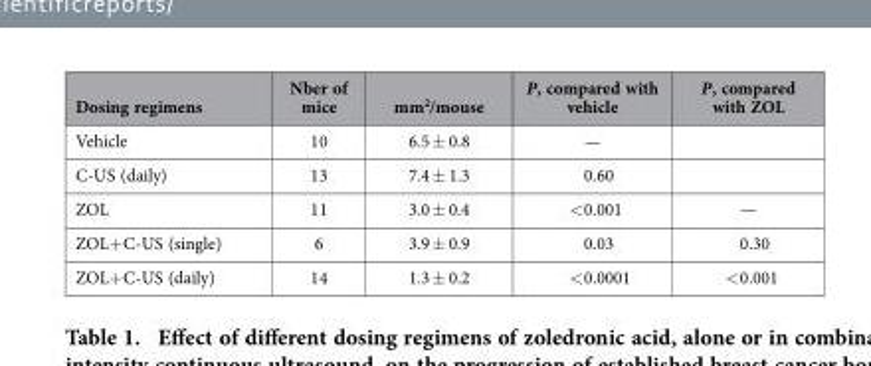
<table><thead><tr><td>Dosing regimens</td><td>Nber of mice</td><td>mm<sup>2</sup>/mouse</td><td>P, compared with vehicle</td><td>P, compared with ZOL</td></tr></thead><tbody><tr><td>Vehicle</td><td>10</td><td>6.5 ± 0.8</td><td>—</td><td></td></tr><tr><td>C-US (daily)</td><td>13</td><td>7.4 ± 1.3</td><td>0.60</td><td></td></tr><tr><td>ZOL</td><td>11</td><td>3.0 ± 0.4</td><td>&lt; 0.001</td><td>—</td></tr><tr><td>ZOL+ C-US (single)</td><td>6</td><td>3.9 ± 0.9</td><td>0.03</td><td>0.30</td></tr><tr><td>ZOL+ C-US (daily)</td><td>14</td><td>1.3 ± 0.2</td><td>&lt; 0.0001</td><td>&lt; 0.001</td></tr></tbody></table>